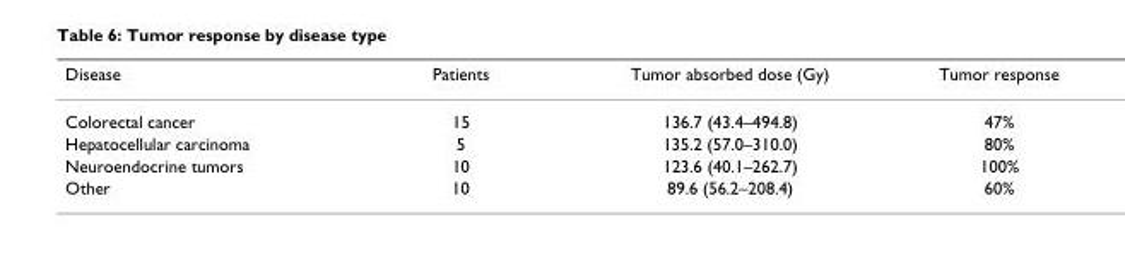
<table><thead><tr><td>Disease</td><td>Patients</td><td>Tumor absorbed dose (Gy)</td><td>Tumor response</td></tr></thead><tbody><tr><td>Colorectal cancer</td><td>15</td><td>136.7 (43.4–494.8)</td><td>47%</td></tr><tr><td>Hepatocellular carcinoma</td><td>5</td><td>135.2 (57.0–310.0)</td><td>80%</td></tr><tr><td>Neuroendocrine tumors</td><td>10</td><td>123.6 (40.1–262.7)</td><td>100%</td></tr><tr><td>Other</td><td>10</td><td>89.6 (56.2–208.4)</td><td>60%</td></tr></tbody></table>